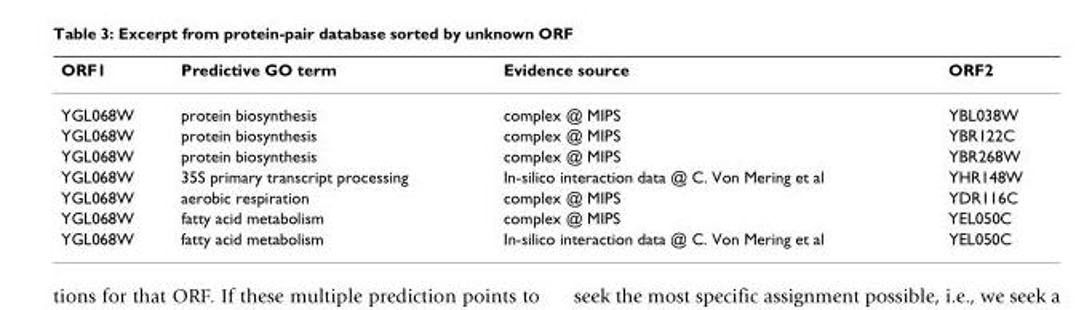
<table><thead><tr><td>ORF1</td><td>Predictive GO term</td><td>Evidence source</td><td>ORF2</td></tr></thead><tbody><tr><td>YGL068W</td><td>protein biosynthesis</td><td>complex @ MIPS</td><td>YBL038W</td></tr><tr><td>YGL068W</td><td>protein biosynthesis</td><td>complex @ MIPS</td><td>YBR122C</td></tr><tr><td>YGL068W</td><td>protein biosynthesis</td><td>complex @ MIPS</td><td>YBR268W</td></tr><tr><td>YGL068W</td><td>35S primary transcript processing</td><td>In-silico interaction data @ C. Von Mering et al</td><td>YHR148W</td></tr><tr><td>YGL068W</td><td>aerobic respiration</td><td>complex @ MIPS</td><td>YDR116C</td></tr><tr><td>YGL068W</td><td>fatty acid metabolism</td><td>complex @ MIPS</td><td>YEL050C</td></tr><tr><td>YGL068W</td><td>fatty acid metabolism</td><td>In-silico interaction data @ C. Von Mering et al</td><td>YEL050C</td></tr></tbody></table>